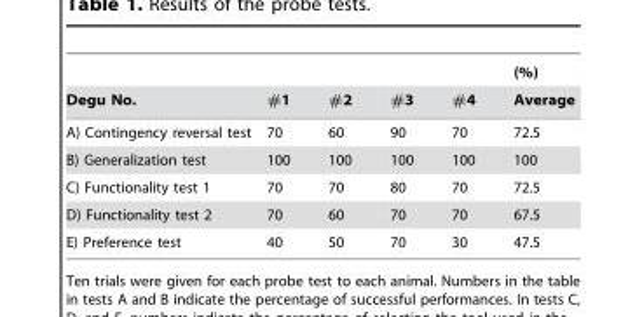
<table><thead><tr><td rowspan="2">Degu No.</td><td rowspan="2">#1</td><td rowspan="2">#2</td><td rowspan="2">#3</td><td rowspan="2">#4</td><td rowspan="2">(%) Average</td></tr><tr></tr></thead><tbody><tr><td>A) Contingency reversal test</td><td>70</td><td>60</td><td>90</td><td>70</td><td>72.5</td></tr><tr><td>B) Generalization test</td><td>100</td><td>100</td><td>100</td><td>100</td><td>100</td></tr><tr><td>C) Functionality test 1</td><td>70</td><td>70</td><td>80</td><td>70</td><td>72.5</td></tr><tr><td>D) Functionality test 2</td><td>70</td><td>60</td><td>70</td><td>70</td><td>67.5</td></tr><tr><td>E) Preference test</td><td>40</td><td>50</td><td>70</td><td>30</td><td>47.5</td></tr></tbody></table>